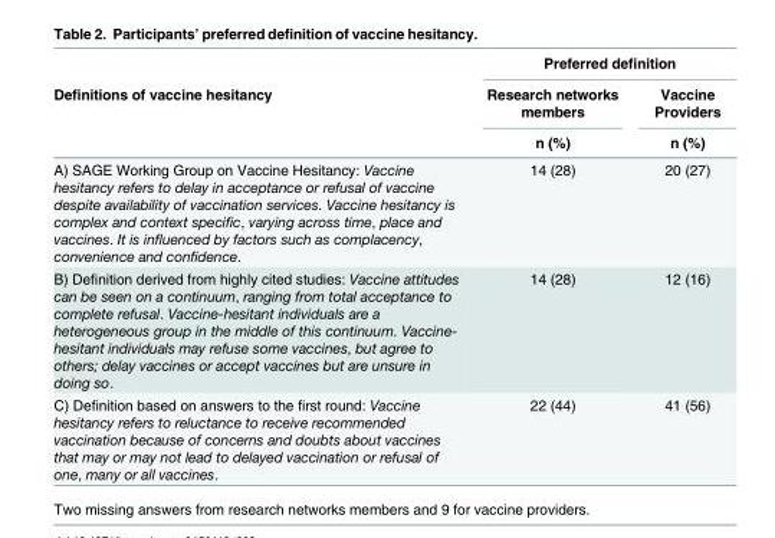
<table><thead><tr><td rowspan="3">Definitions of vaccine hesitancy</td><td colspan="2">Preferred definition</td></tr><tr><td rowspan="2">Research networks members n (%)</td><td rowspan="2">Vaccine Providers n (%)</td></tr><tr></tr></thead><tbody><tr><td>A) SAGE Working Group on Vaccine Hesitancy: Vaccine hesitancy refers to delay in acceptance or refusal of vaccine despite availability of vaccination services. Vaccine hesitancy is complex and context specific, varying across time, place and vaccines. It is influenced by factors such as complacency, convenience and confidence.</td><td>14 (28)</td><td>20 (27)</td></tr><tr><td>B) Definition derived from highly cited studies: Vaccine attitudes can be seen on a continuum, ranging from total acceptance to complete refusal. Vaccine-hesitant individuals are a heterogeneous group in the middle of this continuum. Vaccine- hesitant individuals may refuse some vaccines, but agree to others; delay vaccines or accept vaccines but are unsure in doing so.</td><td>14 (28)</td><td>12 (16)</td></tr><tr><td>C) Definition based on answers to the first round: Vaccine hesitancy refers to reluctance to receive recommended vaccination because of concerns and doubts about vaccines that may or may not lead to delayed vaccination or refusal of one, many or all vaccines.</td><td>22 (44)</td><td>41 (56)</td></tr></tbody></table>